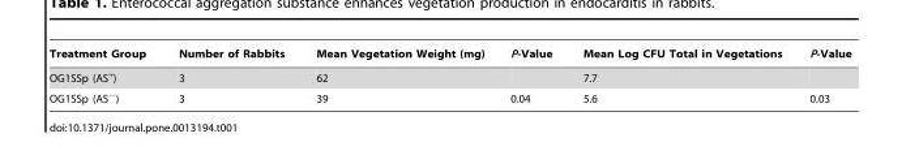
<table><thead><tr><td>Treatment Group</td><td>Number of Rabbits</td><td>Mean Vegetation Weight (mg)</td><td>P-Value</td><td>Mean Log CFU Total in Vegetations</td><td>P-Value</td></tr></thead><tbody><tr><td>OG1SSp (AS<sup>+</sup>)</td><td>3</td><td>62</td><td></td><td>7.7</td><td></td></tr><tr><td>OG1SSp (AS<sup>−</sup>)</td><td>3</td><td>39</td><td>0.04</td><td>5.6</td><td>0.03</td></tr></tbody></table>